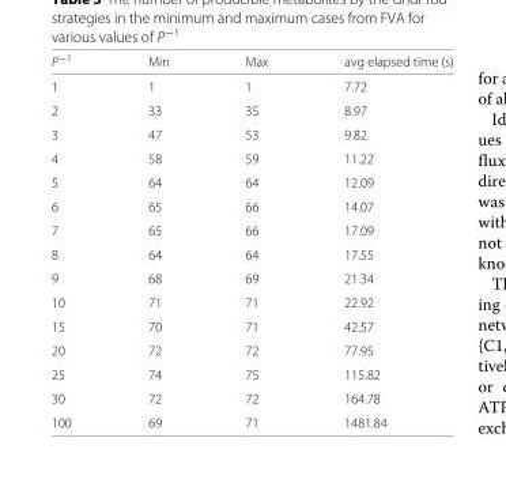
<table><thead><tr><td>P<sup>−1</sup></td><td>Min</td><td>Max</td><td>avg elapsed time (s)</td></tr></thead><tbody><tr><td>1</td><td>1</td><td>1</td><td>7.72</td></tr><tr><td>2</td><td>33</td><td>35</td><td>8.97</td></tr><tr><td>3</td><td>47</td><td>53</td><td>9.82</td></tr><tr><td>4</td><td>58</td><td>59</td><td>11.22</td></tr><tr><td>5</td><td>64</td><td>64</td><td>12.09</td></tr><tr><td>6</td><td>65</td><td>66</td><td>14.07</td></tr><tr><td>7</td><td>65</td><td>66</td><td>17.09</td></tr><tr><td>8</td><td>64</td><td>64</td><td>17.55</td></tr><tr><td>9</td><td>68</td><td>69</td><td>21.34</td></tr><tr><td>10</td><td>71</td><td>71</td><td>22.92</td></tr><tr><td>15</td><td>70</td><td>71</td><td>42.57</td></tr><tr><td>20</td><td>72</td><td>72</td><td>77.95</td></tr><tr><td>25</td><td>74</td><td>75</td><td>115.82</td></tr><tr><td>30</td><td>72</td><td>72</td><td>164.78</td></tr><tr><td>100</td><td>69</td><td>71</td><td>1481.84</td></tr></tbody></table>